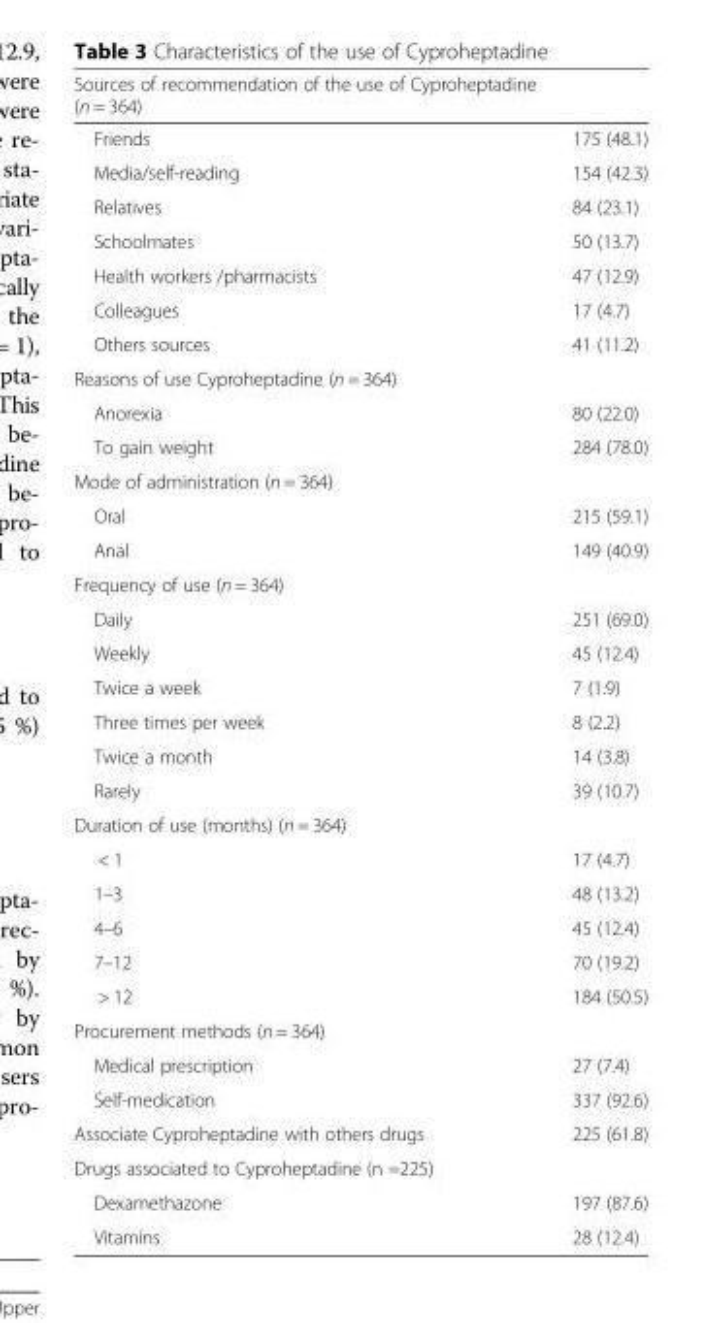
<table><thead><tr><td>Sources of recommendation of the use of Cyproheptadine (n = 364)</td><td></td></tr></thead><tbody><tr><td>Friends</td><td>175 (48.1)</td></tr><tr><td>Media/self-reading</td><td>154 (42.3)</td></tr><tr><td>Relatives</td><td>84 (23.1)</td></tr><tr><td>Schoolmates</td><td>50 (13.7)</td></tr><tr><td>Health workers /pharmacists</td><td>47 (12.9)</td></tr><tr><td>Colleagues</td><td>17 (4.7)</td></tr><tr><td>Others sources</td><td>41 (11.2)</td></tr><tr><td colspan="2">Reasons of use Cyproheptadine (n = 364)</td></tr><tr><td>Anorexia</td><td>80 (22.0)</td></tr><tr><td>To gain weight</td><td>284 (78.0)</td></tr><tr><td colspan="2">Mode of administration (n = 364)</td></tr><tr><td>Oral</td><td>215 (59.1)</td></tr><tr><td>Anal</td><td>149 (40.9)</td></tr><tr><td colspan="2">Frequency of use (n = 364)</td></tr><tr><td>Daily</td><td>251 (69.0)</td></tr><tr><td>Weekly</td><td>45 (12.4)</td></tr><tr><td>Twice a week</td><td>7 (1.9)</td></tr><tr><td>Three times per week</td><td>8 (2.2)</td></tr><tr><td>Twice a month</td><td>14 (3.8)</td></tr><tr><td>Rarely</td><td>39 (10.7)</td></tr><tr><td colspan="2">Duration of use (months) (n = 364)</td></tr><tr><td>&lt; 1</td><td>17 (4.7)</td></tr><tr><td>1–3</td><td>48 (13.2)</td></tr><tr><td>4–6</td><td>45 (12.4)</td></tr><tr><td>7–12</td><td>70 (19.2)</td></tr><tr><td>&gt; 12</td><td>184 (50.5)</td></tr><tr><td colspan="2">Procurement methods (n = 364)</td></tr><tr><td>Medical prescription</td><td>27 (7.4)</td></tr><tr><td>Self-medication</td><td>337 (92.6)</td></tr><tr><td>Associate Cyproheptadine with others drugs</td><td>225 (61.8)</td></tr><tr><td colspan="2">Drugs associated to Cyproheptadine (n =225)</td></tr><tr><td>Dexamethazone</td><td>197 (87.6)</td></tr><tr><td>Vitamins</td><td>28 (12.4)</td></tr></tbody></table>